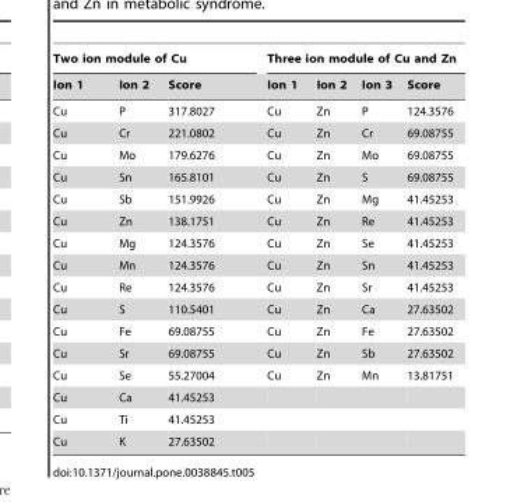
<table><thead><tr><td colspan="3">Two ion module of Cu</td><td colspan="4">Three ion module of Cu and Zn</td></tr><tr><td>Ion 1</td><td>Ion 2</td><td>Score</td><td>Ion 1</td><td>Ion 2</td><td>Ion 3</td><td>Score</td></tr></thead><tbody><tr><td>Cu</td><td>P</td><td>317.8027</td><td>Cu</td><td>Zn</td><td>P</td><td>124.3576</td></tr><tr><td>Cu</td><td>Cr</td><td>221.0802</td><td>Cu</td><td>Zn</td><td>Cr</td><td>69.08755</td></tr><tr><td>Cu</td><td>Mo</td><td>179.6276</td><td>Cu</td><td>Zn</td><td>Mo</td><td>69.08755</td></tr><tr><td>Cu</td><td>Sn</td><td>165.8101</td><td>Cu</td><td>Zn</td><td>S</td><td>69.08755</td></tr><tr><td>Cu</td><td>Sb</td><td>151.9926</td><td>Cu</td><td>Zn</td><td>Mg</td><td>41.45253</td></tr><tr><td>Cu</td><td>Zn</td><td>138.1751</td><td>Cu</td><td>Zn</td><td>Re</td><td>41.45253</td></tr><tr><td>Cu</td><td>Mg</td><td>124.3576</td><td>Cu</td><td>Zn</td><td>Se</td><td>41.45253</td></tr><tr><td>Cu</td><td>Mn</td><td>124.3576</td><td>Cu</td><td>Zn</td><td>Sn</td><td>41.45253</td></tr><tr><td>Cu</td><td>Re</td><td>124.3576</td><td>Cu</td><td>Zn</td><td>Sr</td><td>41.45253</td></tr><tr><td>Cu</td><td>S</td><td>110.5401</td><td>Cu</td><td>Zn</td><td>Ca</td><td>27.63502</td></tr><tr><td>Cu</td><td>Fe</td><td>69.08755</td><td>Cu</td><td>Zn</td><td>Fe</td><td>27.63502</td></tr><tr><td>Cu</td><td>Sr</td><td>69.08755</td><td>Cu</td><td>Zn</td><td>Sb</td><td>27.63502</td></tr><tr><td>Cu</td><td>Se</td><td>55.27004</td><td>Cu</td><td>Zn</td><td>Mn</td><td>13.81751</td></tr><tr><td>Cu</td><td>Ca</td><td>41.45253</td><td></td><td></td><td></td><td></td></tr><tr><td>Cu</td><td>Ti</td><td>41.45253</td><td></td><td></td><td></td><td></td></tr><tr><td>Cu</td><td>K</td><td>27.63502</td><td></td><td></td><td></td><td></td></tr></tbody></table>